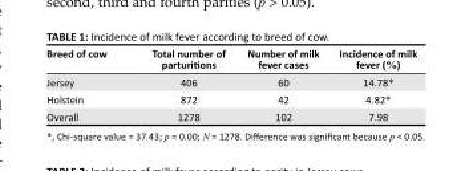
<table><thead><tr><td>Breed of cow</td><td>Total number of parturitions</td><td>Number of milk fever cases</td><td>Incidence of milk fever (%)</td></tr></thead><tbody><tr><td>Jersey</td><td>406</td><td>60</td><td>14.78*</td></tr><tr><td>Holstein</td><td>872</td><td>42</td><td>4.82*</td></tr><tr><td>Overall</td><td>1278</td><td>102</td><td>7.98</td></tr></tbody></table>